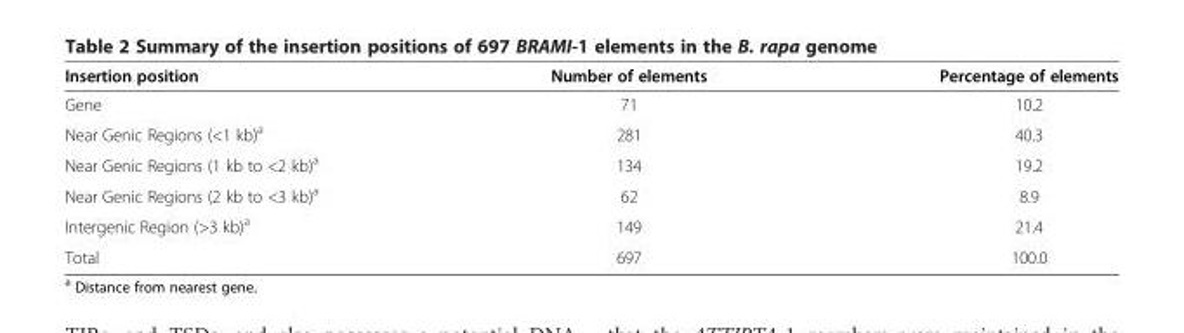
<table><thead><tr><td>Insertion position</td><td>Number of elements</td><td>Percentage of elements</td></tr></thead><tbody><tr><td>Gene</td><td>71</td><td>10.2</td></tr><tr><td>Near Genic Regions (&lt;1 kb)<sup>a</sup></td><td>281</td><td>40.3</td></tr><tr><td>Near Genic Regions (1 kb to &lt;2 kb)<sup>a</sup></td><td>134</td><td>19.2</td></tr><tr><td>Near Genic Regions (2 kb to &lt;3 kb)<sup>a</sup></td><td>62</td><td>8.9</td></tr><tr><td>Intergenic Region (&gt;3 kb)<sup>a</sup></td><td>149</td><td>21.4</td></tr><tr><td>Total</td><td>697</td><td>100.0</td></tr></tbody></table>